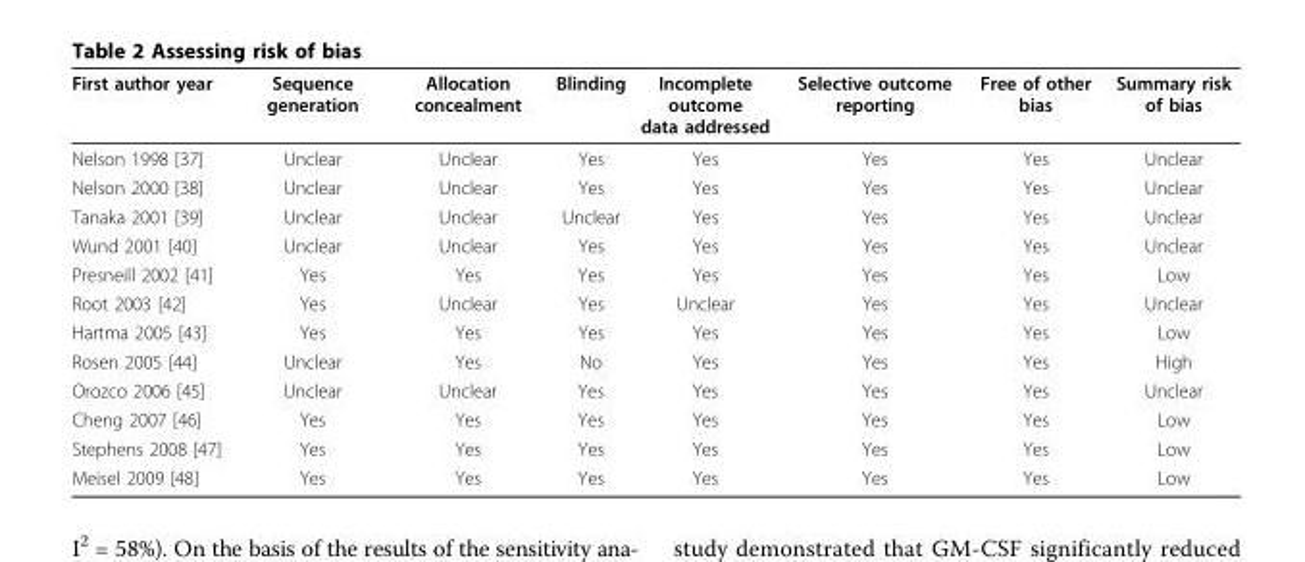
<table><thead><tr><td>First author year</td><td>Sequence generation</td><td>Allocation concealment</td><td>Blinding</td><td>Incomplete outcome data addressed</td><td>Selective outcome reporting</td><td>Free of other bias</td><td>Summary risk of bias</td></tr></thead><tbody><tr><td>Nelson 1998 [37]</td><td>Unclear</td><td>Unclear</td><td>Yes</td><td>Yes</td><td>Yes</td><td>Yes</td><td>Unclear</td></tr><tr><td>Nelson 2000 [38]</td><td>Unclear</td><td>Unclear</td><td>Yes</td><td>Yes</td><td>Yes</td><td>Yes</td><td>Unclear</td></tr><tr><td>Tanaka 2001 [39]</td><td>Unclear</td><td>Unclear</td><td>Unclear</td><td>Yes</td><td>Yes</td><td>Yes</td><td>Unclear</td></tr><tr><td>Wund 2001 [40]</td><td>Unclear</td><td>Unclear</td><td>Yes</td><td>Yes</td><td>Yes</td><td>Yes</td><td>Unclear</td></tr><tr><td>Presneill 2002 [41]</td><td>Yes</td><td>Yes</td><td>Yes</td><td>Yes</td><td>Yes</td><td>Yes</td><td>Low</td></tr><tr><td>Root 2003 [42]</td><td>Yes</td><td>Unclear</td><td>Yes</td><td>Unclear</td><td>Yes</td><td>Yes</td><td>Unclear</td></tr><tr><td>Hartma 2005 [43]</td><td>Yes</td><td>Yes</td><td>Yes</td><td>Yes</td><td>Yes</td><td>Yes</td><td>Low</td></tr><tr><td>Rosen 2005 [44]</td><td>Unclear</td><td>Yes</td><td>No</td><td>Yes</td><td>Yes</td><td>Yes</td><td>High</td></tr><tr><td>Orozco 2006 [45]</td><td>Unclear</td><td>Unclear</td><td>Yes</td><td>Yes</td><td>Yes</td><td>Yes</td><td>Unclear</td></tr><tr><td>Cheng 2007 [46]</td><td>Yes</td><td>Yes</td><td>Yes</td><td>Yes</td><td>Yes</td><td>Yes</td><td>Low</td></tr><tr><td>Stephens 2008 [47]</td><td>Yes</td><td>Yes</td><td>Yes</td><td>Yes</td><td>Yes</td><td>Yes</td><td>Low</td></tr><tr><td>Meisel 2009 [48]</td><td>Yes</td><td>Yes</td><td>Yes</td><td>Yes</td><td>Yes</td><td>Yes</td><td>Low</td></tr></tbody></table>